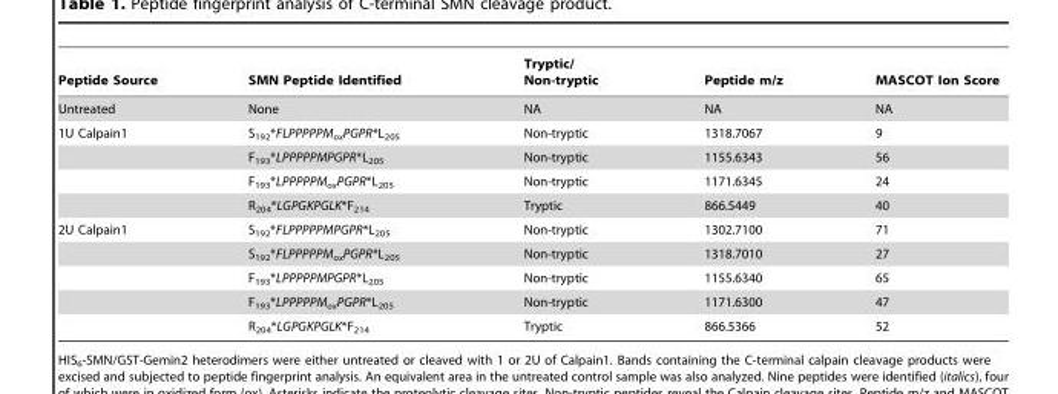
<table><thead><tr><td>Peptide Source</td><td>SMN Peptide Identified</td><td>Tryptic/ Non-tryptic</td><td>Peptide m/z</td><td>MASCOT Ion Score</td></tr></thead><tbody><tr><td>Untreated</td><td>None</td><td>NA</td><td>NA</td><td>NA</td></tr><tr><td rowspan="4">1U Calpain1</td><td>S<sub>192</sub>*FLPPPPPM<sub>ox</sub>PGPR*L<sub>205</sub></td><td>Non-tryptic</td><td>1318.7067</td><td>9</td></tr><tr><td>F<sub>193</sub>*LPPPPPMPGPR*L<sub>205</sub></td><td>Non-tryptic</td><td>1155.6343</td><td>56</td></tr><tr><td>F<sub>193</sub>*LPPPPPM<sub>ox</sub>PGPR*L<sub>205</sub></td><td>Non-tryptic</td><td>1171.6345</td><td>24</td></tr><tr><td>R<sub>204</sub>*LGPGKPGLK*F<sub>214</sub></td><td>Tryptic</td><td>866.5449</td><td>40</td></tr><tr><td rowspan="5">2U Calpain1</td><td>S<sub>192</sub>*FLPPPPPMPGPR*L<sub>205</sub></td><td>Non-tryptic</td><td>1302.7100</td><td>71</td></tr><tr><td>S<sub>192</sub>*FLPPPPPM<sub>ox</sub>PGPR*L<sub>205</sub></td><td>Non-tryptic</td><td>1318.7010</td><td>27</td></tr><tr><td>F<sub>193</sub>*LPPPPPMPGPR*L<sub>205</sub></td><td>Non-tryptic</td><td>1155.6340</td><td>65</td></tr><tr><td>F<sub>193</sub>*LPPPPPM<sub>ox</sub>PGPR*L<sub>205</sub></td><td>Non-tryptic</td><td>1171.6300</td><td>47</td></tr><tr><td>R<sub>204</sub>*LGPGKPGLK*F<sub>214</sub></td><td>Tryptic</td><td>866.5366</td><td>52</td></tr></tbody></table>